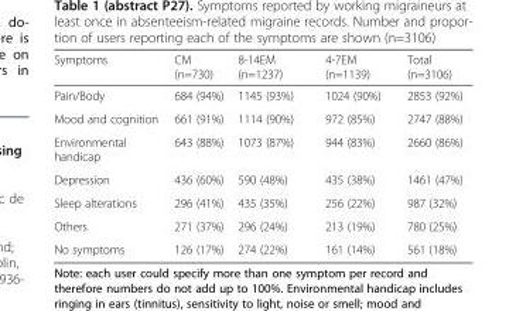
<table><thead><tr><td>Symptoms</td><td>CM (n=730)</td><td>8-14EM (n=1237)</td><td>4-7EM (n=1139)</td><td>Total (n=3106)</td></tr></thead><tbody><tr><td>Pain/Body</td><td>684 (94%)</td><td>1145 (93%)</td><td>1024 (90%)</td><td>2853 (92%)</td></tr><tr><td>Mood and cognition</td><td>661 (91%)</td><td>1114 (90%)</td><td>972 (85%)</td><td>2747 (88%)</td></tr><tr><td>Environmental handicap</td><td>643 (88%)</td><td>1073 (87%)</td><td>944 (83%)</td><td>2660 (86%)</td></tr><tr><td>Depression</td><td>436 (60%)</td><td>590 (48%)</td><td>435 (38%)</td><td>1461 (47%)</td></tr><tr><td>Sleep alterations</td><td>296 (41%)</td><td>435 (35%)</td><td>256 (22%)</td><td>987 (32%)</td></tr><tr><td>Others</td><td>271 (37%)</td><td>296 (24%)</td><td>213 (19%)</td><td>780 (25%)</td></tr><tr><td>No symptoms</td><td>126 (17%)</td><td>274 (22%)</td><td>161 (14%)</td><td>561 (18%)</td></tr></tbody></table>